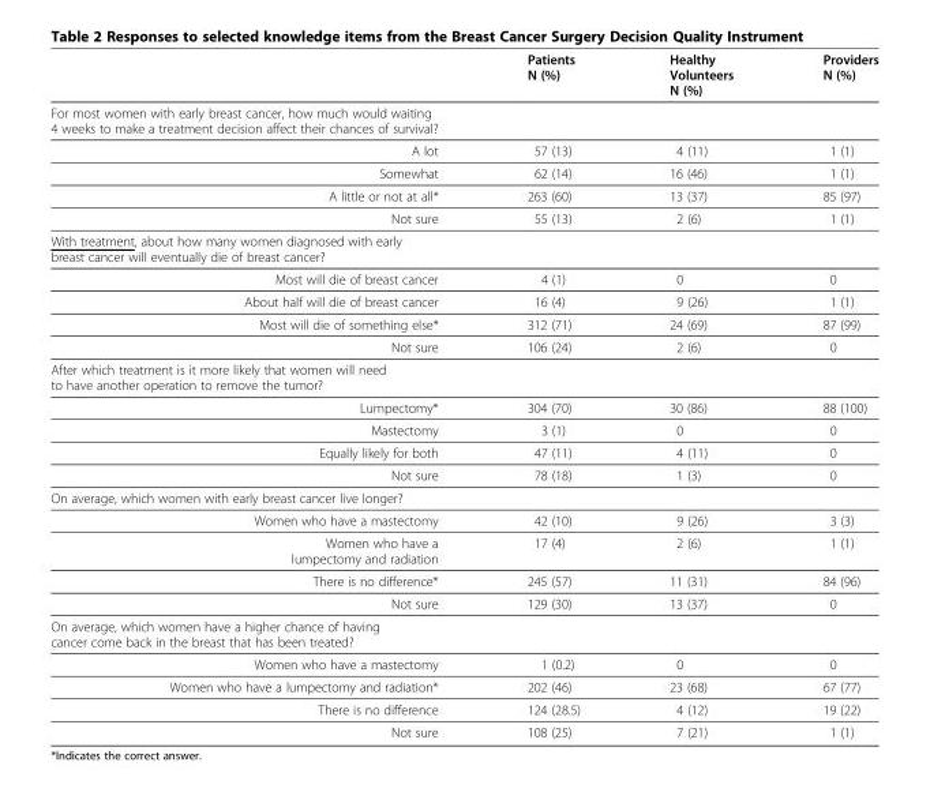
<table><thead><tr><td></td><td>Patients N (%)</td><td>Healthy Volunteers N (%)</td><td>Providers N (%)</td></tr></thead><tbody><tr><td colspan="4">For most women with early breast cancer, how much would waiting 4 weeks to make a treatment decision affect their chances of survival?</td></tr><tr><td>A lot</td><td>57 (13)</td><td>4 (11)</td><td>1 (1)</td></tr><tr><td>Somewhat</td><td>62 (14)</td><td>16 (46)</td><td>1 (1)</td></tr><tr><td>A little or not at all*</td><td>263 (60)</td><td>13 (37)</td><td>85 (97)</td></tr><tr><td>Not sure</td><td>55 (13)</td><td>2 (6)</td><td>1 (1)</td></tr><tr><td colspan="4">With treatment, about how many women diagnosed with early breast cancer will eventually die of breast cancer?</td></tr><tr><td>Most will die of breast cancer</td><td>4 (1)</td><td>0</td><td>0</td></tr><tr><td>About half will die of breast cancer</td><td>16 (4)</td><td>9 (26)</td><td>1 (1)</td></tr><tr><td>Most will die of something else*</td><td>312 (71)</td><td>24 (69)</td><td>87 (99)</td></tr><tr><td>Not sure</td><td>106 (24)</td><td>2 (6)</td><td>0</td></tr><tr><td colspan="4">After which treatment is it more likely that women will need to have another operation to remove the tumor?</td></tr><tr><td>Lumpectomy*</td><td>304 (70)</td><td>30 (86)</td><td>88 (100)</td></tr><tr><td>Mastectomy</td><td>3 (1)</td><td>0</td><td>0</td></tr><tr><td>Equally likely for both</td><td>47 (11)</td><td>4 (11)</td><td>0</td></tr><tr><td>Not sure</td><td>78 (18)</td><td>1 (3)</td><td>0</td></tr><tr><td colspan="4">On average, which women with early breast cancer live longer?</td></tr><tr><td>Women who have a mastectomy</td><td>42 (10)</td><td>9 (26)</td><td>3 (3)</td></tr><tr><td>Women who have a lumpectomy and radiation</td><td>17 (4)</td><td>2 (6)</td><td>1 (1)</td></tr><tr><td>There is no difference*</td><td>245 (57)</td><td>11 (31)</td><td>84 (96)</td></tr><tr><td>Not sure</td><td>129 (30)</td><td>13 (37)</td><td>0</td></tr><tr><td colspan="4">On average, which women have a higher chance of having cancer come back in the breast that has been treated?</td></tr><tr><td>Women who have a mastectomy</td><td>1 (0.2)</td><td>0</td><td>0</td></tr><tr><td>Women who have a lumpectomy and radiation*</td><td>202 (46)</td><td>23 (68)</td><td>67 (77)</td></tr><tr><td>There is no difference</td><td>124 (28.5)</td><td>4 (12)</td><td>19 (22)</td></tr><tr><td>Not sure</td><td>108 (25)</td><td>7 (21)</td><td>1 (1)</td></tr></tbody></table>